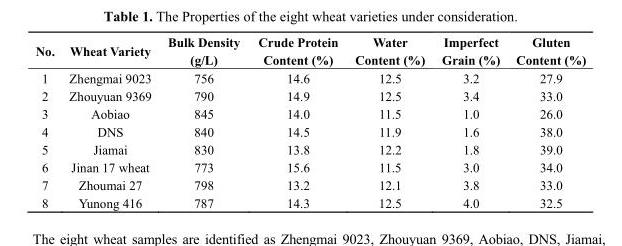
<table><thead><tr><td>No.</td><td>Wheat Variety</td><td>Bulk Density (g/L)</td><td>Crude Protein Content (%)</td><td>Water Content (%)</td><td>Imperfect Grain (%)</td><td>Gluten Content (%)</td></tr></thead><tbody><tr><td>1</td><td>Zhengmai 9023</td><td>756</td><td>14.6</td><td>12.5</td><td>3.2</td><td>27.9</td></tr><tr><td>2</td><td>Zhouyuan 9369</td><td>790</td><td>14.9</td><td>12.5</td><td>3.4</td><td>33.0</td></tr><tr><td>3</td><td>Aobiao</td><td>845</td><td>14.0</td><td>11.5</td><td>1.0</td><td>26.0</td></tr><tr><td>4</td><td>DNS</td><td>840</td><td>14.5</td><td>11.9</td><td>1.6</td><td>38.0</td></tr><tr><td>5</td><td>Jiamai</td><td>830</td><td>13.8</td><td>12.2</td><td>1.8</td><td>39.0</td></tr><tr><td>6</td><td>Jinan 17 wheat</td><td>773</td><td>15.6</td><td>11.5</td><td>3.0</td><td>34.0</td></tr><tr><td>7</td><td>Zhoumai 27</td><td>798</td><td>13.2</td><td>12.1</td><td>3.8</td><td>33.0</td></tr><tr><td>8</td><td>Yunong 416</td><td>787</td><td>14.3</td><td>12.5</td><td>4.0</td><td>32.5</td></tr></tbody></table>